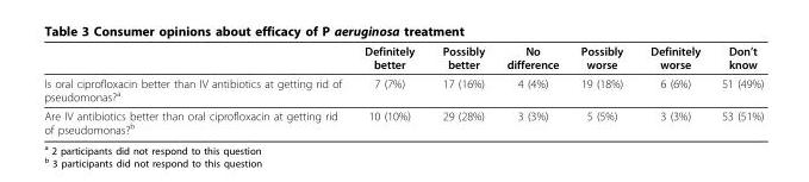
<table><thead><tr><td></td><td>Definitely better</td><td>Possibly better</td><td>No difference</td><td>Possibly worse</td><td>Definitely worse</td><td>Don’t know</td></tr></thead><tbody><tr><td>Is oral ciprofloxacin better than IV antibiotics at getting rid of pseudomonas?<sup>a</sup></td><td>7 (7%)</td><td>17 (16%)</td><td>4 (4%)</td><td>19 (18%)</td><td>6 (6%)</td><td>51 (49%)</td></tr><tr><td>Are IV antibiotics better than oral ciprofloxacin at getting rid of pseudomonas?<sup>b</sup></td><td>10 (10%)</td><td>29 (28%)</td><td>3 (3%)</td><td>5 (5%)</td><td>3 (3%)</td><td>53 (51%)</td></tr></tbody></table>